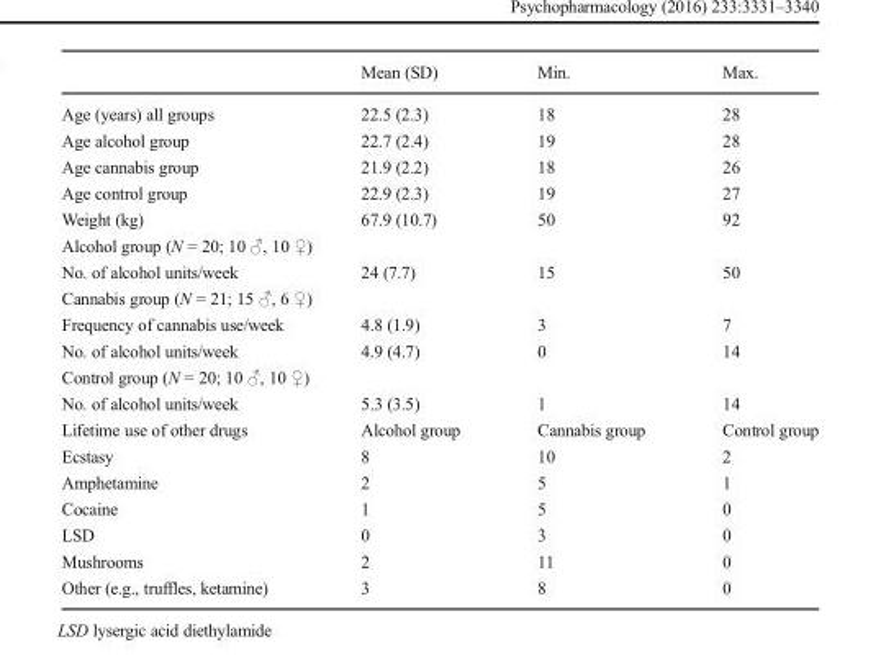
<table><thead><tr><td></td><td>Mean (SD)</td><td>Min.</td><td>Max.</td></tr></thead><tbody><tr><td>Age (years) all groups</td><td>22.5 (2.3)</td><td>18</td><td>28</td></tr><tr><td>Age alcohol group</td><td>22.7 (2.4)</td><td>19</td><td>28</td></tr><tr><td>Age cannabis group</td><td>21.9 (2.2)</td><td>18</td><td>26</td></tr><tr><td>Age control group</td><td>22.9 (2.3)</td><td>19</td><td>27</td></tr><tr><td>Weight (kg)</td><td>67.9 (10.7)</td><td>50</td><td>92</td></tr><tr><td colspan="4">Alcohol group (N = 20; 10 ♂, 10 ♀)</td></tr><tr><td>No. of alcohol units/week</td><td>24 (7.7)</td><td>15</td><td>50</td></tr><tr><td colspan="4">Cannabis group (N = 21; 15 ♂, 6 ♀)</td></tr><tr><td>Frequency of cannabis use/week</td><td>4.8 (1.9)</td><td>3</td><td>7</td></tr><tr><td>No. of alcohol units/week</td><td>4.9 (4.7)</td><td>0</td><td>14</td></tr><tr><td colspan="4">Control group (N = 20; 10 ♂, 10 ♀)</td></tr><tr><td>No. of alcohol units/week</td><td>5.3 (3.5)</td><td>1</td><td>14</td></tr><tr><td>Lifetime use of other drugs</td><td>Alcohol group</td><td>Cannabis group</td><td>Control group</td></tr><tr><td>Ecstasy</td><td>8</td><td>10</td><td>2</td></tr><tr><td>Amphetamine</td><td>2</td><td>5</td><td>1</td></tr><tr><td>Cocaine</td><td>1</td><td>5</td><td>0</td></tr><tr><td>LSD</td><td>0</td><td>3</td><td>0</td></tr><tr><td>Mushrooms</td><td>2</td><td>11</td><td>0</td></tr><tr><td>Other (e.g., truffles, ketamine)</td><td>3</td><td>8</td><td>0</td></tr></tbody></table>